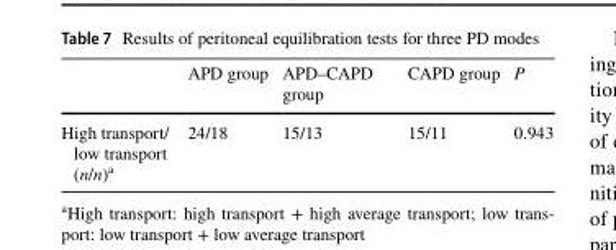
<table><thead><tr><td></td><td>APD group</td><td>APD–CAPD group</td><td>CAPD group</td><td>P</td></tr></thead><tbody><tr><td>High transport/ low transport (n/n)<sup>a</sup></td><td>24/18</td><td>15/13</td><td>15/11</td><td>0.943</td></tr></tbody></table>